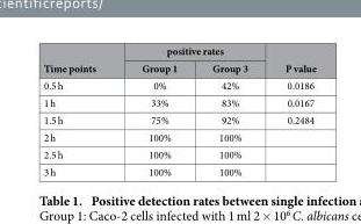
<table><thead><tr><td rowspan="2">Time points</td><td colspan="2">positive rates</td><td rowspan="2">P value</td></tr><tr><td>Group 1</td><td>Group 3</td></tr></thead><tbody><tr><td>0.5 h</td><td>0%</td><td>42%</td><td>0.0186</td></tr><tr><td>1 h</td><td>33%</td><td>83%</td><td>0.0167</td></tr><tr><td>1.5 h</td><td>75%</td><td>92%</td><td>0.2484</td></tr><tr><td>2 h</td><td>100%</td><td>100%</td><td></td></tr><tr><td>2.5 h</td><td>100%</td><td>100%</td><td></td></tr><tr><td>3 h</td><td>100%</td><td>100%</td><td></td></tr></tbody></table>